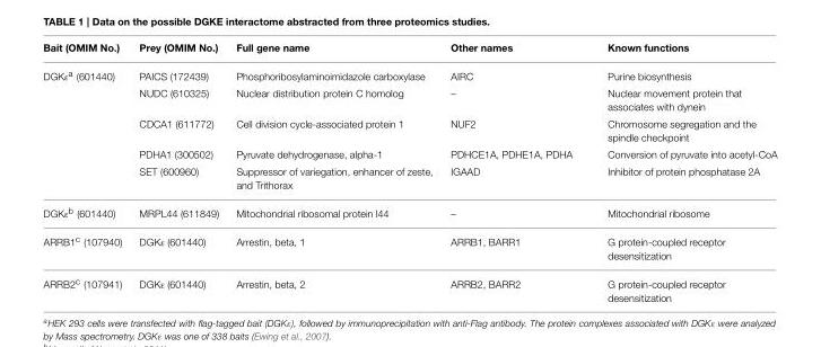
<table><thead><tr><td>Bait (OMIM No.)</td><td>Prey (OMIM No.)</td><td>Full gene name</td><td>Other names</td><td>Known functions</td></tr></thead><tbody><tr><td rowspan="5">DGKε<sup>a</sup> (601440)</td><td>PAICS (172439)</td><td>Phosphoribosylaminoimidazole carboxylase</td><td>AIRC</td><td>Purine biosynthesis</td></tr><tr><td>NUDC (610325)</td><td>Nuclear distribution protein C homolog</td><td>–</td><td>Nuclear movement protein that associates with dynein</td></tr><tr><td>CDCA1 (611772)</td><td>Cell division cycle-associated protein 1</td><td>NUF2</td><td>Chromosome segregation and the spindle checkpoint</td></tr><tr><td>PDHA1 (300502)</td><td>Pyruvate dehydrogenase, alpha-1</td><td>PDHCE1A, PDHE1A, PDHA</td><td>Conversion of pyruvate into acetyl-CoA</td></tr><tr><td>SET (600960)</td><td>Suppressor of variegation, enhancer of zeste, and Trithorax</td><td>IGAAD</td><td>Inhibitor of protein phosphatase 2A</td></tr><tr><td>DGKε<sup>b</sup> (601440)</td><td>MRPL44 (611849)</td><td>Mitochondrial ribosomal protein l44</td><td>–</td><td>Mitochondrial ribosome</td></tr><tr><td>ARRB1<sup>c</sup> (107940)</td><td>DGKε (601440)</td><td>Arrestin, beta, 1</td><td>ARRB1, BARR1</td><td>G protein-coupled receptor desensitization</td></tr><tr><td>ARRB2<sup>c</sup> (107941)</td><td>DGKε (601440)</td><td>Arrestin, beta, 2</td><td>ARRB2, BARR2</td><td>G protein-coupled receptor desensitization</td></tr></tbody></table>